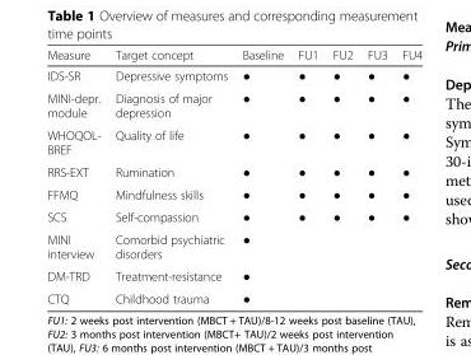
<table><thead><tr><td>Measure</td><td>Target concept</td><td>Baseline</td><td>FU1</td><td>FU2</td><td>FU3</td><td>FU4</td></tr></thead><tbody><tr><td>IDS-SR</td><td>Depressive symptoms</td><td>●</td><td>●</td><td>●</td><td>●</td><td>●</td></tr><tr><td>MINI-depr. module</td><td>Diagnosis of major depression</td><td>●</td><td>●</td><td>●</td><td>●</td><td>●</td></tr><tr><td>WHOQOL- BREF</td><td>Quality of life</td><td>●</td><td>●</td><td>●</td><td>●</td><td>●</td></tr><tr><td>RRS-EXT</td><td>Rumination</td><td>●</td><td>●</td><td>●</td><td>●</td><td>●</td></tr><tr><td>FFMQ</td><td>Mindfulness skills</td><td>●</td><td>●</td><td>●</td><td>●</td><td>●</td></tr><tr><td>SCS</td><td>Self-compassion</td><td>●</td><td>●</td><td>●</td><td>●</td><td>●</td></tr><tr><td>MINI interview</td><td>Comorbid psychiatric disorders</td><td>●</td><td></td><td></td><td></td><td></td></tr><tr><td>DM-TRD</td><td>Treatment-resistance</td><td>●</td><td></td><td></td><td></td><td></td></tr><tr><td>CTQ</td><td>Childhood trauma</td><td>●</td><td></td><td></td><td></td><td></td></tr></tbody></table>